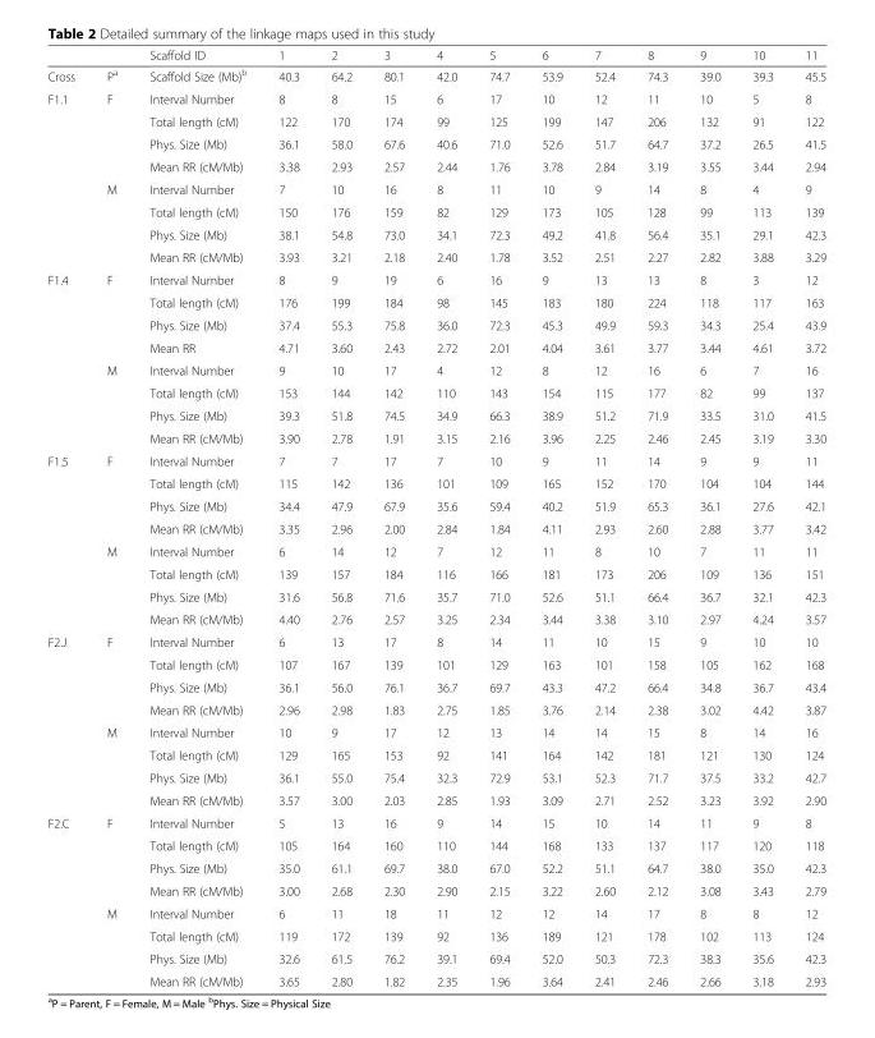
<table><thead><tr><td></td><td></td><td>Scaffold ID</td><td>1</td><td>2</td><td>3</td><td>4</td><td>5</td><td>6</td><td>7</td><td>8</td><td>9</td><td>10</td><td>11</td></tr></thead><tbody><tr><td>Cross</td><td>P<sup>a</sup></td><td>Scaffold Size (Mb)<sup>b</sup></td><td>40.3</td><td>64.2</td><td>80.1</td><td>42.0</td><td>74.7</td><td>53.9</td><td>52.4</td><td>74.3</td><td>39.0</td><td>39.3</td><td>45.5</td></tr><tr><td rowspan="8">F1.1</td><td rowspan="4">F</td><td>Interval Number</td><td>8</td><td>8</td><td>15</td><td>6</td><td>17</td><td>10</td><td>12</td><td>11</td><td>10</td><td>5</td><td>8</td></tr><tr><td>Total length (cM)</td><td>122</td><td>170</td><td>174</td><td>99</td><td>125</td><td>199</td><td>147</td><td>206</td><td>132</td><td>91</td><td>122</td></tr><tr><td>Phys. Size (Mb)</td><td>36.1</td><td>58.0</td><td>67.6</td><td>40.6</td><td>71.0</td><td>52.6</td><td>51.7</td><td>64.7</td><td>37.2</td><td>26.5</td><td>41.5</td></tr><tr><td>Mean RR (cM/Mb)</td><td>3.38</td><td>2.93</td><td>2.57</td><td>2.44</td><td>1.76</td><td>3.78</td><td>2.84</td><td>3.19</td><td>3.55</td><td>3.44</td><td>2.94</td></tr><tr><td rowspan="4">M</td><td>Interval Number</td><td>7</td><td>10</td><td>16</td><td>8</td><td>11</td><td>10</td><td>9</td><td>14</td><td>8</td><td>4</td><td>9</td></tr><tr><td>Total length (cM)</td><td>150</td><td>176</td><td>159</td><td>82</td><td>129</td><td>173</td><td>105</td><td>128</td><td>99</td><td>113</td><td>139</td></tr><tr><td>Phys. Size (Mb)</td><td>38.1</td><td>54.8</td><td>73.0</td><td>34.1</td><td>72.3</td><td>49.2</td><td>41.8</td><td>56.4</td><td>35.1</td><td>29.1</td><td>42.3</td></tr><tr><td>Mean RR (cM/Mb)</td><td>3.93</td><td>3.21</td><td>2.18</td><td>2.40</td><td>1.78</td><td>3.52</td><td>2.51</td><td>2.27</td><td>2.82</td><td>3.88</td><td>3.29</td></tr><tr><td rowspan="8">F1.4</td><td rowspan="4">F</td><td>Interval Number</td><td>8</td><td>9</td><td>19</td><td>6</td><td>16</td><td>9</td><td>13</td><td>13</td><td>8</td><td>3</td><td>12</td></tr><tr><td>Total length (cM)</td><td>176</td><td>199</td><td>184</td><td>98</td><td>145</td><td>183</td><td>180</td><td>224</td><td>118</td><td>117</td><td>163</td></tr><tr><td>Phys. Size (Mb)</td><td>37.4</td><td>55.3</td><td>75.8</td><td>36.0</td><td>72.3</td><td>45.3</td><td>49.9</td><td>59.3</td><td>34.3</td><td>25.4</td><td>43.9</td></tr><tr><td>Mean RR</td><td>4.71</td><td>3.60</td><td>2.43</td><td>2.72</td><td>2.01</td><td>4.04</td><td>3.61</td><td>3.77</td><td>3.44</td><td>4.61</td><td>3.72</td></tr><tr><td rowspan="4">M</td><td>Interval Number</td><td>9</td><td>10</td><td>17</td><td>4</td><td>12</td><td>8</td><td>12</td><td>16</td><td>6</td><td>7</td><td>16</td></tr><tr><td>Total length (cM)</td><td>153</td><td>144</td><td>142</td><td>110</td><td>143</td><td>154</td><td>115</td><td>177</td><td>82</td><td>99</td><td>137</td></tr><tr><td>Phys. Size (Mb)</td><td>39.3</td><td>51.8</td><td>74.5</td><td>34.9</td><td>66.3</td><td>38.9</td><td>51.2</td><td>71.9</td><td>33.5</td><td>31.0</td><td>41.5</td></tr><tr><td>Mean RR (cM/Mb)</td><td>3.90</td><td>2.78</td><td>1.91</td><td>3.15</td><td>2.16</td><td>3.96</td><td>2.25</td><td>2.46</td><td>2.45</td><td>3.19</td><td>3.30</td></tr><tr><td rowspan="8">F1.5</td><td rowspan="4">F</td><td>Interval Number</td><td>7</td><td>7</td><td>17</td><td>7</td><td>10</td><td>9</td><td>11</td><td>14</td><td>9</td><td>9</td><td>11</td></tr><tr><td>Total length (cM)</td><td>115</td><td>142</td><td>136</td><td>101</td><td>109</td><td>165</td><td>152</td><td>170</td><td>104</td><td>104</td><td>144</td></tr><tr><td>Phys. Size (Mb)</td><td>34.4</td><td>47.9</td><td>67.9</td><td>35.6</td><td>59.4</td><td>40.2</td><td>51.9</td><td>65.3</td><td>36.1</td><td>27.6</td><td>42.1</td></tr><tr><td>Mean RR (cM/Mb)</td><td>3.35</td><td>2.96</td><td>2.00</td><td>2.84</td><td>1.84</td><td>4.11</td><td>2.93</td><td>2.60</td><td>2.88</td><td>3.77</td><td>3.42</td></tr><tr><td rowspan="4">M</td><td>Interval Number</td><td>6</td><td>14</td><td>12</td><td>7</td><td>12</td><td>11</td><td>8</td><td>10</td><td>7</td><td>11</td><td>11</td></tr><tr><td>Total length (cM)</td><td>139</td><td>157</td><td>184</td><td>116</td><td>166</td><td>181</td><td>173</td><td>206</td><td>109</td><td>136</td><td>151</td></tr><tr><td>Phys. Size (Mb)</td><td>31.6</td><td>56.8</td><td>71.6</td><td>35.7</td><td>71.0</td><td>52.6</td><td>51.1</td><td>66.4</td><td>36.7</td><td>32.1</td><td>42.3</td></tr><tr><td>Mean RR (cM/Mb)</td><td>4.40</td><td>2.76</td><td>2.57</td><td>3.25</td><td>2.34</td><td>3.44</td><td>3.38</td><td>3.10</td><td>2.97</td><td>4.24</td><td>3.57</td></tr><tr><td rowspan="8">F2.J</td><td rowspan="4">F</td><td>Interval Number</td><td>6</td><td>13</td><td>17</td><td>8</td><td>14</td><td>11</td><td>10</td><td>15</td><td>9</td><td>10</td><td>10</td></tr><tr><td>Total length (cM)</td><td>107</td><td>167</td><td>139</td><td>101</td><td>129</td><td>163</td><td>101</td><td>158</td><td>105</td><td>162</td><td>168</td></tr><tr><td>Phys. Size (Mb)</td><td>36.1</td><td>56.0</td><td>76.1</td><td>36.7</td><td>69.7</td><td>43.3</td><td>47.2</td><td>66.4</td><td>34.8</td><td>36.7</td><td>43.4</td></tr><tr><td>Mean RR (cM/Mb)</td><td>2.96</td><td>2.98</td><td>1.83</td><td>2.75</td><td>1.85</td><td>3.76</td><td>2.14</td><td>2.38</td><td>3.02</td><td>4.42</td><td>3.87</td></tr><tr><td rowspan="4">M</td><td>Interval Number</td><td>10</td><td>9</td><td>17</td><td>12</td><td>13</td><td>14</td><td>14</td><td>15</td><td>8</td><td>14</td><td>16</td></tr><tr><td>Total length (cM)</td><td>129</td><td>165</td><td>153</td><td>92</td><td>141</td><td>164</td><td>142</td><td>181</td><td>121</td><td>130</td><td>124</td></tr><tr><td>Phys. Size (Mb)</td><td>36.1</td><td>55.0</td><td>75.4</td><td>32.3</td><td>72.9</td><td>53.1</td><td>52.3</td><td>71.7</td><td>37.5</td><td>33.2</td><td>42.7</td></tr><tr><td>Mean RR (cM/Mb)</td><td>3.57</td><td>3.00</td><td>2.03</td><td>2.85</td><td>1.93</td><td>3.09</td><td>2.71</td><td>2.52</td><td>3.23</td><td>3.92</td><td>2.90</td></tr><tr><td rowspan="8">F2.C</td><td rowspan="4">F</td><td>Interval Number</td><td>5</td><td>13</td><td>16</td><td>9</td><td>14</td><td>15</td><td>10</td><td>14</td><td>11</td><td>9</td><td>8</td></tr><tr><td>Total length (cM)</td><td>105</td><td>164</td><td>160</td><td>110</td><td>144</td><td>168</td><td>133</td><td>137</td><td>117</td><td>120</td><td>118</td></tr><tr><td>Phys. Size (Mb)</td><td>35.0</td><td>61.1</td><td>69.7</td><td>38.0</td><td>67.0</td><td>52.2</td><td>51.1</td><td>64.7</td><td>38.0</td><td>35.0</td><td>42.3</td></tr><tr><td>Mean RR (cM/Mb)</td><td>3.00</td><td>2.68</td><td>2.30</td><td>2.90</td><td>2.15</td><td>3.22</td><td>2.60</td><td>2.12</td><td>3.08</td><td>3.43</td><td>2.79</td></tr><tr><td rowspan="4">M</td><td>Interval Number</td><td>6</td><td>11</td><td>18</td><td>11</td><td>12</td><td>12</td><td>14</td><td>17</td><td>8</td><td>8</td><td>12</td></tr><tr><td>Total length (cM)</td><td>119</td><td>172</td><td>139</td><td>92</td><td>136</td><td>189</td><td>121</td><td>178</td><td>102</td><td>113</td><td>124</td></tr><tr><td>Phys. Size (Mb)</td><td>32.6</td><td>61.5</td><td>76.2</td><td>39.1</td><td>69.4</td><td>52.0</td><td>50.3</td><td>72.3</td><td>38.3</td><td>35.6</td><td>42.3</td></tr><tr><td>Mean RR (cM/Mb)</td><td>3.65</td><td>2.80</td><td>1.82</td><td>2.35</td><td>1.96</td><td>3.64</td><td>2.41</td><td>2.46</td><td>2.66</td><td>3.18</td><td>2.93</td></tr></tbody></table>